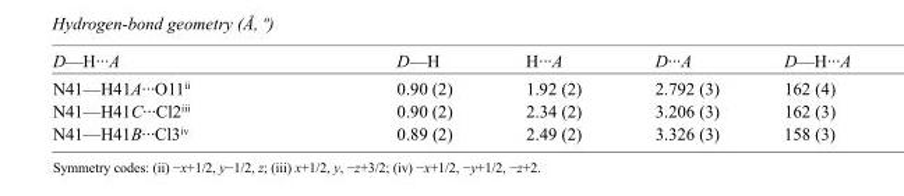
<table><tbody><tr><td>D—H···A</td><td>D—H</td><td>H···A</td><td>D···A</td><td>D—H···A</td></tr><tr><td>N41—H41A···O11<sup>ii</sup></td><td>0.90 (2)</td><td>1.92 (2)</td><td>2.792 (3)</td><td>162 (4)</td></tr><tr><td>N41—H41C···Cl2<sup>iii</sup></td><td>0.90 (2)</td><td>2.34 (2)</td><td>3.206 (3)</td><td>162 (3)</td></tr><tr><td>N41—H41B···Cl3<sup>iv</sup></td><td>0.89 (2)</td><td>2.49 (2)</td><td>3.326 (3)</td><td>158 (3)</td></tr></tbody></table>